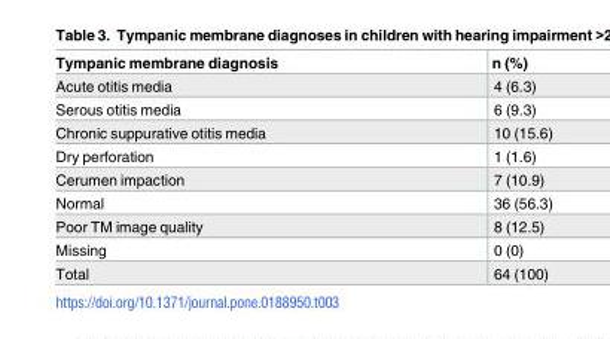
<table><thead><tr><td>Tympanic membrane diagnosis</td><td>n (%)</td></tr></thead><tbody><tr><td>Acute otitis media</td><td>4 (6.3)</td></tr><tr><td>Serous otitis media</td><td>6 (9.3)</td></tr><tr><td>Chronic suppurative otitis media</td><td>10 (15.6)</td></tr><tr><td>Dry perforation</td><td>1 (1.6)</td></tr><tr><td>Cerumen impaction</td><td>7 (10.9)</td></tr><tr><td>Normal</td><td>36 (56.3)</td></tr><tr><td>Poor TM image quality</td><td>8 (12.5)</td></tr><tr><td>Missing</td><td>0 (0)</td></tr><tr><td>Total</td><td>64 (100)</td></tr></tbody></table>